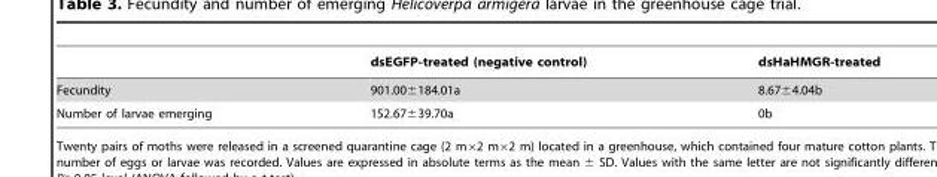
<table><thead><tr><td></td><td>dsEGFP-treated (negative control)</td><td>dsHaHMGR-treated</td></tr></thead><tbody><tr><td>Fecundity</td><td>901.00±184.01a</td><td>8.67±4.04b</td></tr><tr><td>Number of larvae emerging</td><td>152.67±39.70a</td><td>0b</td></tr></tbody></table>